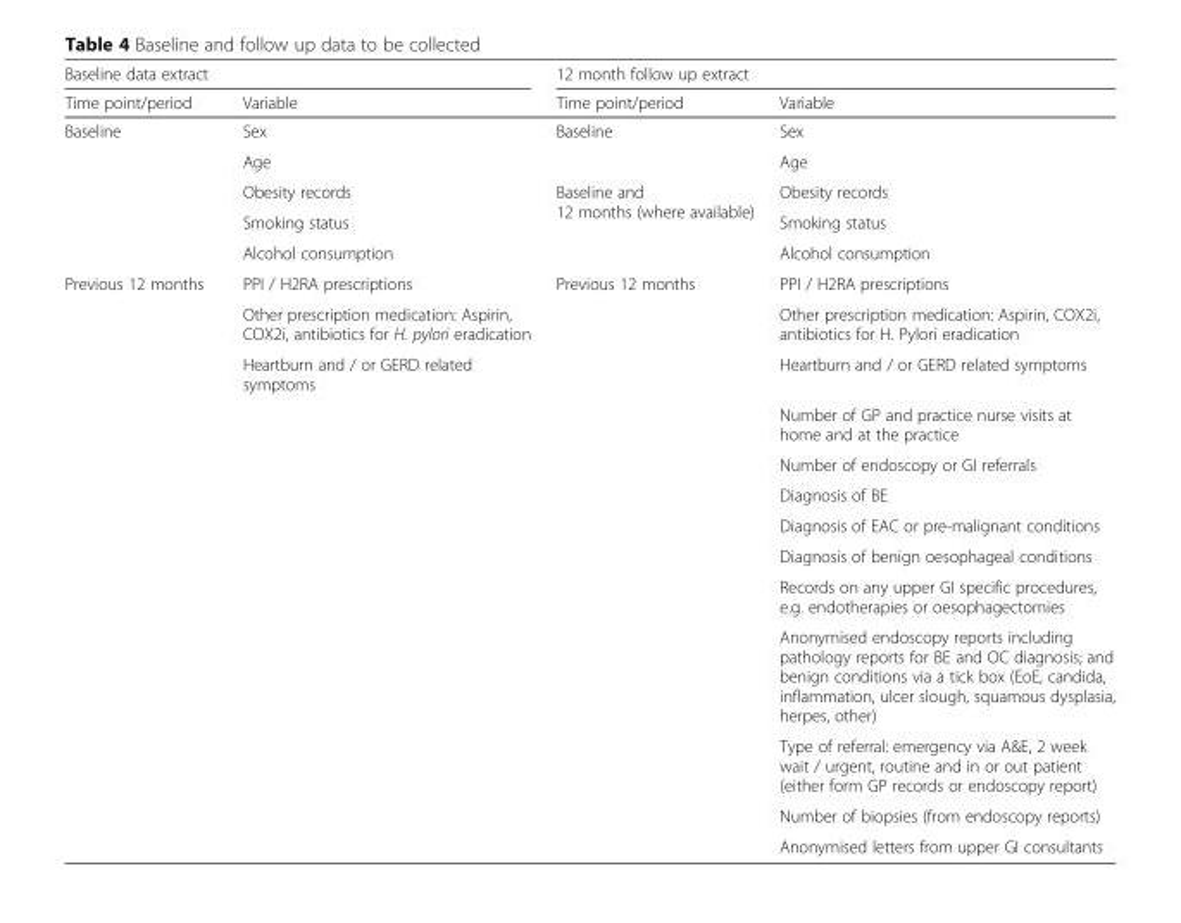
<table><thead><tr><td colspan="2">Baseline data extract</td><td colspan="2">12 month follow up extract</td></tr><tr><td>Time point/period</td><td>Variable</td><td>Time point/period</td><td>Variable</td></tr></thead><tbody><tr><td rowspan="5">Baseline</td><td>Sex</td><td rowspan="2">Baseline</td><td>Sex</td></tr><tr><td>Age</td><td>Age</td></tr><tr><td>Obesity records</td><td rowspan="3">Baseline and 12 months (where available)</td><td>Obesity records</td></tr><tr><td>Smoking status</td><td>Smoking status</td></tr><tr><td>Alcohol consumption</td><td>Alcohol consumption</td></tr><tr><td rowspan="13">Previous 12 months</td><td>PPI / H2RA prescriptions</td><td rowspan="13">Previous 12 months</td><td>PPI / H2RA prescriptions</td></tr><tr><td>Other prescription medication: Aspirin, COX2i, antibiotics for H. pylori eradication</td><td>Other prescription medication: Aspirin, COX2i, antibiotics for H. Pylori eradication</td></tr><tr><td>Heartburn and / or GERD related symptoms</td><td>Heartburn and / or GERD related symptoms</td></tr><tr><td></td><td>Number of GP and practice nurse visits at home and at the practice</td></tr><tr><td></td><td>Number of endoscopy or GI referrals</td></tr><tr><td></td><td>Diagnosis of BE</td></tr><tr><td></td><td>Diagnosis of EAC or pre-malignant conditions</td></tr><tr><td></td><td>Diagnosis of benign oesophageal conditions</td></tr><tr><td></td><td>Records on any upper GI specific procedures, e.g. endotherapies or oesophagectomies</td></tr><tr><td></td><td>Anonymised endoscopy reports including pathology reports for BE and OC diagnosis; and benign conditions via a tick box (EoE, candida, inflammation, ulcer slough, squamous dysplasia, herpes, other)</td></tr><tr><td></td><td>Type of referral: emergency via A&amp;E, 2 week wait / urgent, routine and in or out patient (either form GP records or endoscopy report)</td></tr><tr><td></td><td>Number of biopsies (from endoscopy reports)</td></tr><tr><td></td><td>Anonymised letters from upper GI consultants</td></tr></tbody></table>